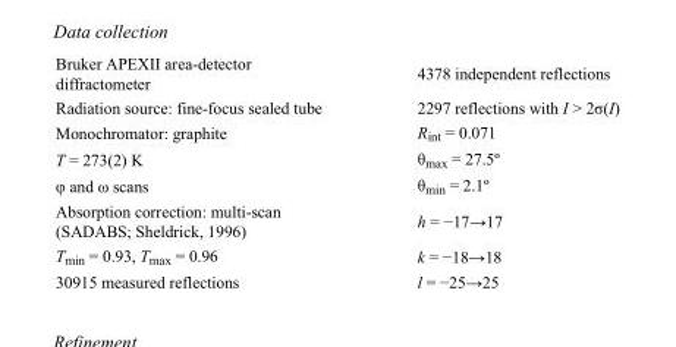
<table><tbody><tr><td>Bruker APEXII area-detector diffractometer</td><td>4378 independent reflections</td></tr><tr><td>Radiation source: fine-focus sealed tube</td><td>2297 reflections with I &gt; 2σ(I)</td></tr><tr><td>Monochromator: graphite</td><td>R<sub>int</sub> = 0.071</td></tr><tr><td>T = 273(2) K</td><td>θ<sub>max</sub> = 27.5º</td></tr><tr><td>φ and ω scans</td><td>θ<sub>min</sub> = 2.1º</td></tr><tr><td>Absorption correction: multi-scan (SADABS; Sheldrick, 1996)</td><td>h = −17→17</td></tr><tr><td>T<sub>min</sub> = 0.93, T<sub>max</sub> = 0.96</td><td>k = −18→18</td></tr><tr><td>30915 measured reflections</td><td>l = −25→25</td></tr></tbody></table>